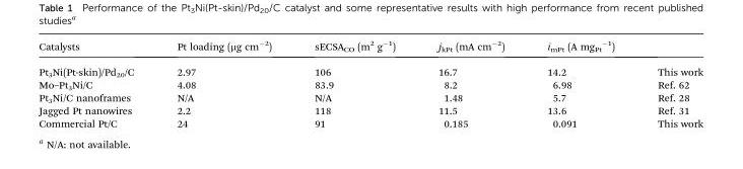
<table><thead><tr><td>Catalysts</td><td>Pt loading (μg cm<sup>–2</sup>)</td><td>sECSA<sub>CO</sub> (m<sup>2</sup> g<sup>–1</sup>)</td><td>j<sub>kPt</sub> (mA cm<sup>–2</sup>)</td><td>i<sub>mPt</sub> (A mg<sub>Pt</sub> <sup>–1</sup>)</td><td></td></tr></thead><tbody><tr><td>Pt<sub>3</sub>Ni(Pt-skin)/Pd<sub>20</sub>/C</td><td>2.97</td><td>106</td><td>16.7</td><td>14.2</td><td>This work</td></tr><tr><td>Mo–Pt<sub>3</sub>Ni/C</td><td>4.08</td><td>83.9</td><td>8.2</td><td>6.98</td><td>Ref. 62</td></tr><tr><td>Pt<sub>3</sub>Ni/C nanoframes</td><td>N/A</td><td>N/A</td><td>1.48</td><td>5.7</td><td>Ref. 28</td></tr><tr><td>Jagged Pt nanowires</td><td>2.2</td><td>118</td><td>11.5</td><td>13.6</td><td>Ref. 31</td></tr><tr><td>Commercial Pt/C</td><td>24</td><td>91</td><td>0.185</td><td>0.091</td><td>This work</td></tr></tbody></table>